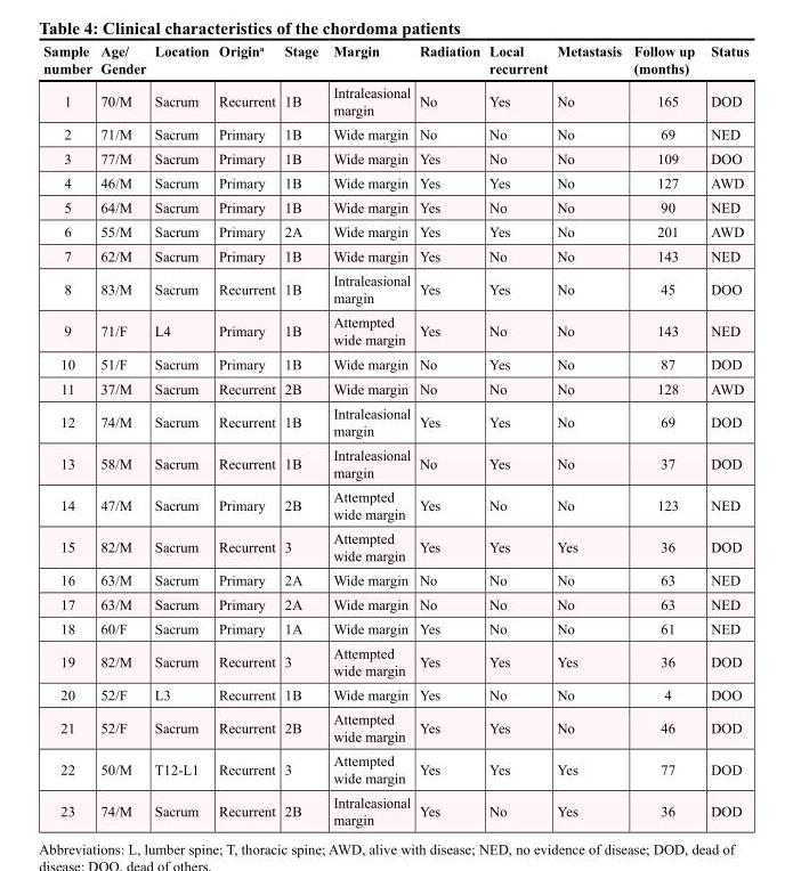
<table><thead><tr><td>Sample number</td><td>Age/ Gender</td><td>Location</td><td>Origin<sup>a</sup></td><td>Stage</td><td>Margin</td><td>Radiation</td><td>Local recurrent</td><td>Metastasis</td><td>Follow up (months)</td><td>Status</td></tr></thead><tbody><tr><td>1</td><td>70/M</td><td>Sacrum</td><td>Recurrent</td><td>1B</td><td>Intraleasional margin</td><td>No</td><td>Yes</td><td>No</td><td>165</td><td>DOD</td></tr><tr><td>2</td><td>71/M</td><td>Sacrum</td><td>Primary</td><td>1B</td><td>Wide margin</td><td>No</td><td>No</td><td>No</td><td>69</td><td>NED</td></tr><tr><td>3</td><td>77/M</td><td>Sacrum</td><td>Primary</td><td>1B</td><td>Wide margin</td><td>Yes</td><td>No</td><td>No</td><td>109</td><td>DOO</td></tr><tr><td>4</td><td>46/M</td><td>Sacrum</td><td>Primary</td><td>1B</td><td>Wide margin</td><td>Yes</td><td>Yes</td><td>No</td><td>127</td><td>AWD</td></tr><tr><td>5</td><td>64/M</td><td>Sacrum</td><td>Primary</td><td>1B</td><td>Wide margin</td><td>Yes</td><td>No</td><td>No</td><td>90</td><td>NED</td></tr><tr><td>6</td><td>55/M</td><td>Sacrum</td><td>Primary</td><td>2A</td><td>Wide margin</td><td>Yes</td><td>Yes</td><td>No</td><td>201</td><td>AWD</td></tr><tr><td>7</td><td>62/M</td><td>Sacrum</td><td>Primary</td><td>1B</td><td>Wide margin</td><td>Yes</td><td>No</td><td>No</td><td>143</td><td>NED</td></tr><tr><td>8</td><td>83/M</td><td>Sacrum</td><td>Recurrent</td><td>1B</td><td>Intraleasional margin</td><td>Yes</td><td>Yes</td><td>No</td><td>45</td><td>DOO</td></tr><tr><td>9</td><td>71/F</td><td>L4</td><td>Primary</td><td>1B</td><td>Attempted wide margin</td><td>Yes</td><td>No</td><td>No</td><td>143</td><td>NED</td></tr><tr><td>10</td><td>51/F</td><td>Sacrum</td><td>Primary</td><td>1B</td><td>Wide margin</td><td>No</td><td>Yes</td><td>No</td><td>87</td><td>DOD</td></tr><tr><td>11</td><td>37/M</td><td>Sacrum</td><td>Recurrent</td><td>2B</td><td>Wide margin</td><td>No</td><td>No</td><td>No</td><td>128</td><td>AWD</td></tr><tr><td>12</td><td>74/M</td><td>Sacrum</td><td>Recurrent</td><td>1B</td><td>Intraleasional margin</td><td>Yes</td><td>Yes</td><td>No</td><td>69</td><td>DOD</td></tr><tr><td>13</td><td>58/M</td><td>Sacrum</td><td>Recurrent</td><td>1B</td><td>Intraleasional margin</td><td>No</td><td>Yes</td><td>No</td><td>37</td><td>DOD</td></tr><tr><td>14</td><td>47/M</td><td>Sacrum</td><td>Primary</td><td>2B</td><td>Attempted wide margin</td><td>Yes</td><td>No</td><td>No</td><td>123</td><td>NED</td></tr><tr><td>15</td><td>82/M</td><td>Sacrum</td><td>Recurrent</td><td>3</td><td>Attempted wide margin</td><td>Yes</td><td>Yes</td><td>Yes</td><td>36</td><td>DOD</td></tr><tr><td>16</td><td>63/M</td><td>Sacrum</td><td>Primary</td><td>2A</td><td>Wide margin</td><td>No</td><td>No</td><td>No</td><td>63</td><td>NED</td></tr><tr><td>17</td><td>63/M</td><td>Sacrum</td><td>Primary</td><td>2A</td><td>Wide margin</td><td>No</td><td>No</td><td>No</td><td>63</td><td>NED</td></tr><tr><td>18</td><td>60/F</td><td>Sacrum</td><td>Primary</td><td>1A</td><td>Wide margin</td><td>Yes</td><td>No</td><td>No</td><td>61</td><td>NED</td></tr><tr><td>19</td><td>82/M</td><td>Sacrum</td><td>Recurrent</td><td>3</td><td>Attempted wide margin</td><td>Yes</td><td>Yes</td><td>Yes</td><td>36</td><td>DOD</td></tr><tr><td>20</td><td>52/F</td><td>L3</td><td>Recurrent</td><td>1B</td><td>Wide margin</td><td>Yes</td><td>No</td><td>No</td><td>4</td><td>DOO</td></tr><tr><td>21</td><td>52/F</td><td>Sacrum</td><td>Recurrent</td><td>2B</td><td>Attempted wide margin</td><td>Yes</td><td>Yes</td><td>No</td><td>46</td><td>DOD</td></tr><tr><td>22</td><td>50/M</td><td>T12-L1</td><td>Recurrent</td><td>3</td><td>Attempted wide margin</td><td>Yes</td><td>Yes</td><td>Yes</td><td>77</td><td>DOD</td></tr><tr><td>23</td><td>74/M</td><td>Sacrum</td><td>Recurrent</td><td>2B</td><td>Intraleasional margin</td><td>Yes</td><td>No</td><td>Yes</td><td>36</td><td>DOD</td></tr></tbody></table>